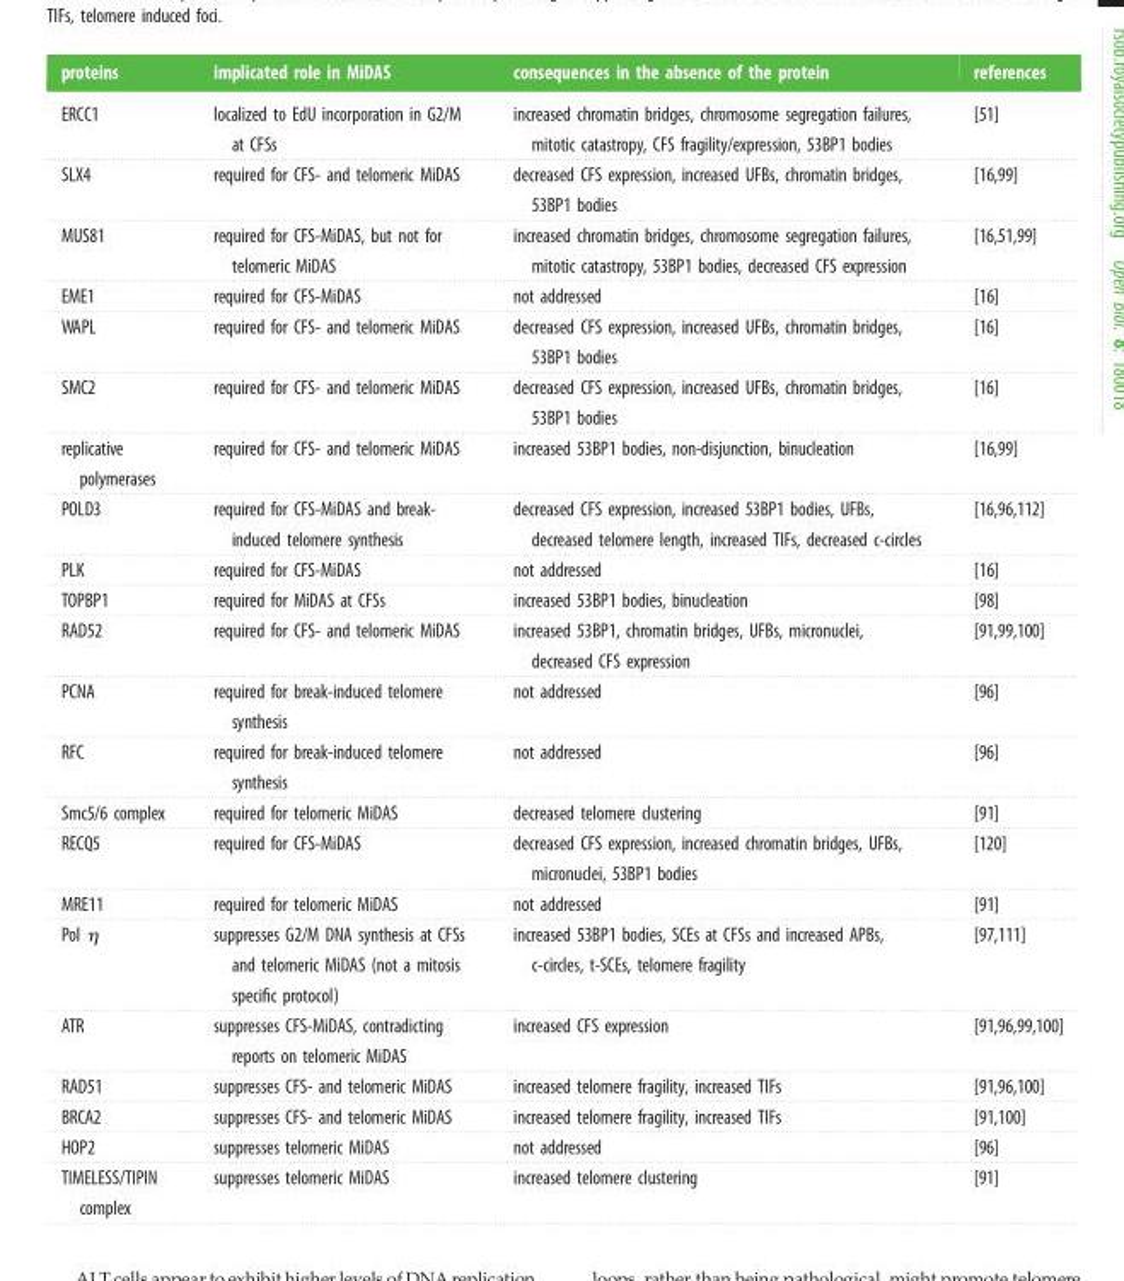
<table><thead><tr><td>proteins</td><td>implicated role in MiDAS</td><td>consequences in the absence of the protein</td><td>references</td></tr></thead><tbody><tr><td>ERCC1</td><td>localized to EdU incorporation in G2/M at CFSs</td><td>increased chromatin bridges, chromosome segregation failures, mitotic catastropy, CFS fragility/expression, 53BP1 bodies</td><td>[51]</td></tr><tr><td>SLX4</td><td>required for CFS- and telomeric MiDAS</td><td>decreased CFS expression, increased UFBs, chromatin bridges, 53BP1 bodies</td><td>[16,99]</td></tr><tr><td>MUS81</td><td>required for CFS-MiDAS, but not for telomeric MiDAS</td><td>increased chromatin bridges, chromosome segregation failures, mitotic catastropy, 53BP1 bodies, decreased CFS expression</td><td>[16,51,99]</td></tr><tr><td>EME1</td><td>required for CFS-MiDAS</td><td>not addressed</td><td>[16]</td></tr><tr><td>WAPL</td><td>required for CFS- and telomeric MiDAS</td><td>decreased CFS expression, increased UFBs, chromatin bridges, 53BP1 bodies</td><td>[16]</td></tr><tr><td>SMC2</td><td>required for CFS- and telomeric MiDAS</td><td>decreased CFS expression, increased UFBs, chromatin bridges, 53BP1 bodies</td><td>[16]</td></tr><tr><td>replicative polymerases</td><td>required for CFS- and telomeric MiDAS</td><td>increased 53BP1 bodies, non-disjunction, binucleation</td><td>[16,99]</td></tr><tr><td>POLD3</td><td>required for CFS-MiDAS and break- induced telomere synthesis</td><td>decreased CFS expression, increased 53BP1 bodies, UFBs, decreased telomere length, increased TIFs, decreased c-circles</td><td>[16,96,112]</td></tr><tr><td>PLK</td><td>required for CFS-MiDAS</td><td>not addressed</td><td>[16]</td></tr><tr><td>TOPBP1</td><td>required for MiDAS at CFSs</td><td>increased 53BP1 bodies, binucleation</td><td>[98]</td></tr><tr><td>RAD52</td><td>required for CFS- and telomeric MiDAS</td><td>increased 53BP1, chromatin bridges, UFBs, micronuclei, decreased CFS expression</td><td>[91,99,100]</td></tr><tr><td>PCNA</td><td>required for break-induced telomere synthesis</td><td>not addressed</td><td>[96]</td></tr><tr><td>RFC</td><td>required for break-induced telomere synthesis</td><td>not addressed</td><td>[96]</td></tr><tr><td>Smc5/6 complex</td><td>required for telomeric MiDAS</td><td>decreased telomere clustering</td><td>[91]</td></tr><tr><td>RECQ5</td><td>required for CFS-MiDAS</td><td>decreased CFS expression, increased chromatin bridges, UFBs, micronuclei, 53BP1 bodies</td><td>[120]</td></tr><tr><td>MRE11</td><td>required for telomeric MiDAS</td><td>not addressed</td><td>[91]</td></tr><tr><td>Pol η</td><td>suppresses G2/M DNA synthesis at CFSs and telomeric MiDAS (not a mitosis specific protocol)</td><td>increased 53BP1 bodies, SCEs at CFSs and increased APBs, c-circles, t-SCEs, telomere fragility</td><td>[97,111]</td></tr><tr><td>ATR</td><td>suppresses CFS-MiDAS, contradicting reports on telomeric MiDAS</td><td>increased CFS expression</td><td>[91,96,99,100]</td></tr><tr><td>RAD51</td><td>suppresses CFS- and telomeric MiDAS</td><td>increased telomere fragility, increased TIFs</td><td>[91,96,100]</td></tr><tr><td>BRCA2</td><td>suppresses CFS- and telomeric MiDAS</td><td>increased telomere fragility, increased TIFs</td><td>[91,100]</td></tr><tr><td>HOP2</td><td>suppresses telomeric MiDAS</td><td>not addressed</td><td>[96]</td></tr><tr><td>TIMELESS/TIPIN complex</td><td>suppresses telomeric MiDAS</td><td>increased telomere clustering</td><td>[91]</td></tr></tbody></table>